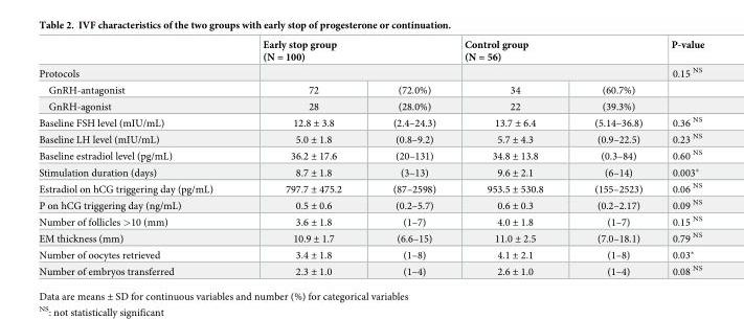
<table><thead><tr><td rowspan="3">Protocols GnRH-antagonist</td><td rowspan="2" colspan="2">Early stop group (N = 100)</td><td rowspan="2" colspan="2">Control group (N = 56)</td><td rowspan="3">P-value 0.15 <sup>NS</sup></td></tr><tr></tr><tr><td>72</td><td>(72.0%)</td><td>34</td><td>(60.7%)</td></tr></thead><tbody><tr><td>GnRH-agonist</td><td>28</td><td>(28.0%)</td><td>22</td><td>(39.3%)</td><td></td></tr><tr><td>Baseline FSH level (mIU/mL)</td><td>12.8 ± 3.8</td><td>(2.4–24.3)</td><td>13.7 ± 6.4</td><td>(5.14–36.8)</td><td>0.36 <sup>NS</sup></td></tr><tr><td>Baseline LH level (mIU/mL)</td><td>5.0 ± 1.8</td><td>(0.8–9.2)</td><td>5.7 ± 4.3</td><td>(0.9–22.5)</td><td>0.23 <sup>NS</sup></td></tr><tr><td>Baseline estradiol level (pg/mL)</td><td>36.2 ± 17.6</td><td>(20–131)</td><td>34.8 ± 13.8</td><td>(0.3–84)</td><td>0.60 <sup>NS</sup></td></tr><tr><td>Stimulation duration (days)</td><td>8.7 ± 1.8</td><td>(3–13)</td><td>9.6 ± 2.1</td><td>(6–14)</td><td>0.003*</td></tr><tr><td>Estradiol on hCG triggering day (pg/mL)</td><td>797.7 ± 475.2</td><td>(87–2598)</td><td>953.5 ± 530.8</td><td>(155–2523)</td><td>0.06 <sup>NS</sup></td></tr><tr><td>P on hCG triggering day (ng/mL)</td><td>0.5 ± 0.6</td><td>(0.2–5.7)</td><td>0.6 ± 0.3</td><td>(0.2–2.17)</td><td>0.09 <sup>NS</sup></td></tr><tr><td>Number of follicles &gt;10 (mm)</td><td>3.6 ± 1.8</td><td>(1–7)</td><td>4.0 ± 1.8</td><td>(1–7)</td><td>0.15 <sup>NS</sup></td></tr><tr><td>EM thickness (mm)</td><td>10.9 ± 1.7</td><td>(6.6–15)</td><td>11.0 ± 2.5</td><td>(7.0–18.1)</td><td>0.79 <sup>NS</sup></td></tr><tr><td>Number of oocytes retrieved</td><td>3.4 ± 1.8</td><td>(1–8)</td><td>4.1 ± 2.1</td><td>(1–8)</td><td>0.03*</td></tr><tr><td>Number of embryos transferred</td><td>2.3 ± 1.0</td><td>(1–4)</td><td>2.6 ± 1.0</td><td>(1–4)</td><td>0.08 <sup>NS</sup></td></tr></tbody></table>